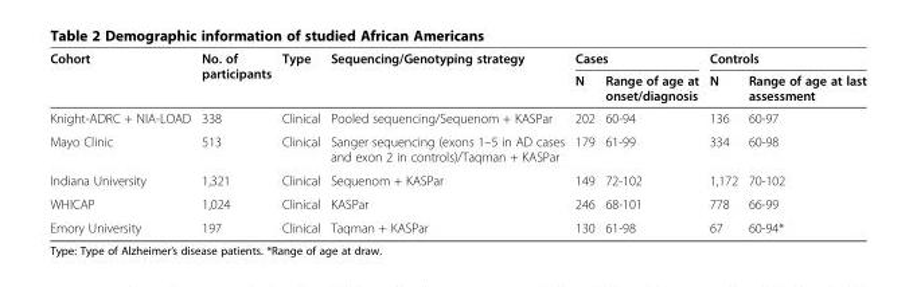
<table><thead><tr><td rowspan="2">Cohort</td><td rowspan="2">No. of participants</td><td rowspan="2">Type</td><td rowspan="2">Sequencing/Genotyping strategy</td><td colspan="2">Cases</td><td colspan="2">Controls</td></tr><tr><td>N</td><td>Range of age at onset/diagnosis</td><td>N</td><td>Range of age at last assessment</td></tr></thead><tbody><tr><td>Knight-ADRC + NIA-LOAD</td><td>338</td><td>Clinical</td><td>Pooled sequencing/Sequenom + KASPar</td><td>202</td><td>60-94</td><td>136</td><td>60-97</td></tr><tr><td>Mayo Clinic</td><td>513</td><td>Clinical</td><td>Sanger sequencing (exons 1–5 in AD cases and exon 2 in controls)/Taqman + KASPar</td><td>179</td><td>61-99</td><td>334</td><td>60-98</td></tr><tr><td>Indiana University</td><td>1,321</td><td>Clinical</td><td>Sequenom + KASPar</td><td>149</td><td>72-102</td><td>1,172</td><td>70-102</td></tr><tr><td>WHICAP</td><td>1,024</td><td>Clinical</td><td>KASPar</td><td>246</td><td>68-101</td><td>778</td><td>66-99</td></tr><tr><td>Emory University</td><td>197</td><td>Clinical</td><td>Taqman + KASPar</td><td>130</td><td>61-98</td><td>67</td><td>60-94*</td></tr></tbody></table>